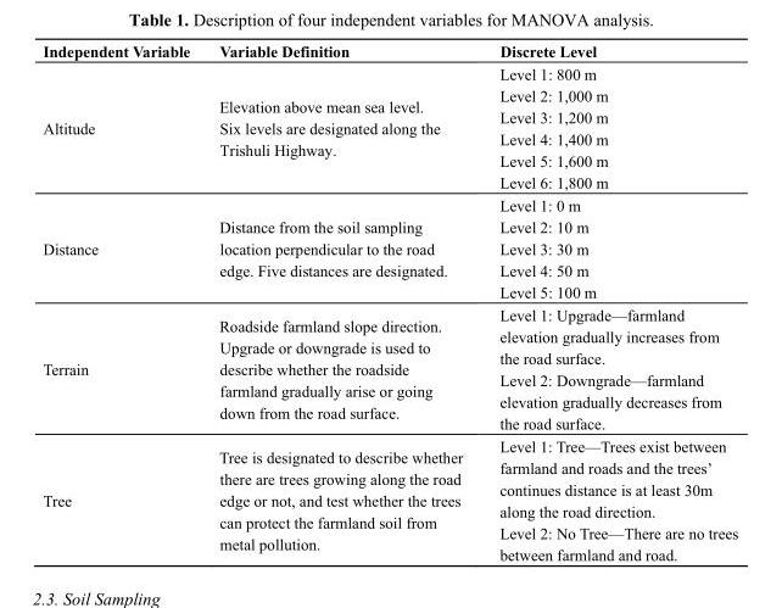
<table><thead><tr><td>Independent Variable</td><td>Variable Definition</td><td>Discrete Level</td></tr></thead><tbody><tr><td rowspan="6">Altitude</td><td rowspan="6">Elevation above mean sea level. Six levels are designated along the Trishuli Highway.</td><td>Level 1: 800 m</td></tr><tr><td>Level 2: 1,000 m</td></tr><tr><td>Level 3: 1,200 m</td></tr><tr><td>Level 4: 1,400 m</td></tr><tr><td>Level 5: 1,600 m</td></tr><tr><td>Level 6: 1,800 m</td></tr><tr><td rowspan="5">Distance</td><td rowspan="5">Distance from the soil sampling location perpendicular to the road edge. Five distances are designated.</td><td>Level 1: 0 m</td></tr><tr><td>Level 2: 10 m</td></tr><tr><td>Level 3: 30 m</td></tr><tr><td>Level 4: 50 m</td></tr><tr><td>Level 5: 100 m</td></tr><tr><td rowspan="2">Terrain</td><td rowspan="2">Roadside farmland slope direction. Upgrade or downgrade is used to describe whether the roadside farmland gradually arise or going down from the road surface.</td><td>Level 1: Upgrade—farmland elevation gradually increases from the road surface.</td></tr><tr><td>Level 2: Downgrade—farmland elevation gradually decreases from the road surface.</td></tr><tr><td rowspan="2">Tree</td><td rowspan="2">Tree is designated to describe whether there are trees growing along the road edge or not, and test whether the trees can protect the farmland soil from metal pollution.</td><td>Level 1: Tree—Trees exist between farmland and roads and the trees’ continues distance is at least 30m along the road direction.</td></tr><tr><td>Level 2: No Tree—There are no trees between farmland and road.</td></tr></tbody></table>